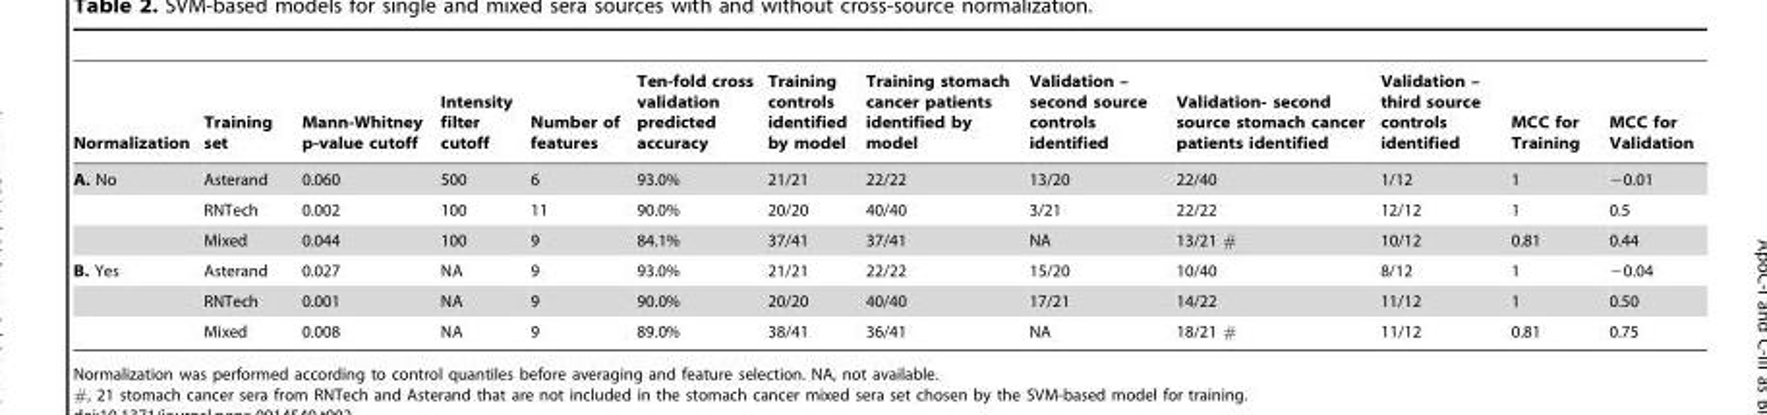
<table><thead><tr><td>Normalization</td><td>Training set</td><td>Mann-Whitney p-value cutoff</td><td>Intensity filter cutoff</td><td>Number of features</td><td>Ten-fold cross validation predicted accuracy</td><td>Training controls identified by model</td><td>Training stomach cancer patients identified by model</td><td>Validation – second source controls identified</td><td>Validation- second source stomach cancer patients identified</td><td>Validation – third source controls identified</td><td>MCC for Training</td><td>MCC for Validation</td></tr></thead><tbody><tr><td rowspan="3">A. No</td><td>Asterand</td><td>0.060</td><td>500</td><td>6</td><td>93.0%</td><td>21/21</td><td>22/22</td><td>13/20</td><td>22/40</td><td>1/12</td><td>1</td><td>−0.01</td></tr><tr><td>RNTech</td><td>0.002</td><td>100</td><td>11</td><td>90.0%</td><td>20/20</td><td>40/40</td><td>3/21</td><td>22/22</td><td>12/12</td><td>1</td><td>0.5</td></tr><tr><td>Mixed</td><td>0.044</td><td>100</td><td>9</td><td>84.1%</td><td>37/41</td><td>37/41</td><td>NA</td><td>13/21 #</td><td>10/12</td><td>0.81</td><td>0.44</td></tr><tr><td rowspan="3">B. Yes</td><td>Asterand</td><td>0.027</td><td>NA</td><td>9</td><td>93.0%</td><td>21/21</td><td>22/22</td><td>15/20</td><td>10/40</td><td>8/12</td><td>1</td><td>−0.04</td></tr><tr><td>RNTech</td><td>0.001</td><td>NA</td><td>9</td><td>90.0%</td><td>20/20</td><td>40/40</td><td>17/21</td><td>14/22</td><td>11/12</td><td>1</td><td>0.50</td></tr><tr><td>Mixed</td><td>0.008</td><td>NA</td><td>9</td><td>89.0%</td><td>38/41</td><td>36/41</td><td>NA</td><td>18/21 #</td><td>11/12</td><td>0.81</td><td>0.75</td></tr></tbody></table>